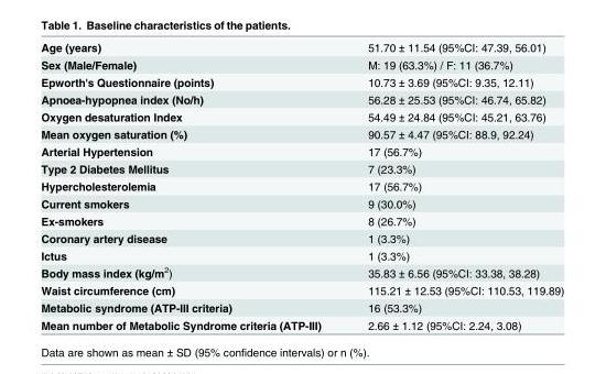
<table><tbody><tr><td>Age (years)</td><td>51.70 ± 11.54 (95%CI: 47.39, 56.01)</td></tr><tr><td>Sex (Male/Female)</td><td>M: 19 (63.3%) / F: 11 (36.7%)</td></tr><tr><td>Epworth&#x27;s Questionnaire (points)</td><td>10.73 ± 3.69 (95%CI: 9.35, 12.11)</td></tr><tr><td>Apnoea-hypopnea index (No/h)</td><td>56.28 ± 25.53 (95%CI: 46.74, 65.82)</td></tr><tr><td>Oxygen desaturation Index</td><td>54.49 ± 24.84 (95%CI: 45.21, 63.76)</td></tr><tr><td>Mean oxygen saturation (%)</td><td>90.57 ± 4.47 (95%CI: 88.9, 92.24)</td></tr><tr><td>Arterial Hypertension</td><td>17 (56.7%)</td></tr><tr><td>Type 2 Diabetes Mellitus</td><td>7 (23.3%)</td></tr><tr><td>Hypercholesterolemia</td><td>17 (56.7%)</td></tr><tr><td>Current smokers</td><td>9 (30.0%)</td></tr><tr><td>Ex-smokers</td><td>8 (26.7%)</td></tr><tr><td>Coronary artery disease</td><td>1 (3.3%)</td></tr><tr><td>Ictus</td><td>1 (3.3%)</td></tr><tr><td>Body mass index (kg/m<sup>2</sup>)</td><td>35.83 ± 6.56 (95%CI: 33.38, 38.28)</td></tr><tr><td>Waist circumference (cm)</td><td>115.21 ± 12.53 (95%CI: 110.53, 119.89)</td></tr><tr><td>Metabolic syndrome (ATP-III criteria)</td><td>16 (53.3%)</td></tr><tr><td>Mean number of Metabolic Syndrome criteria (ATP-III)</td><td>2.66 ± 1.12 (95%CI: 2.24, 3.08)</td></tr></tbody></table>